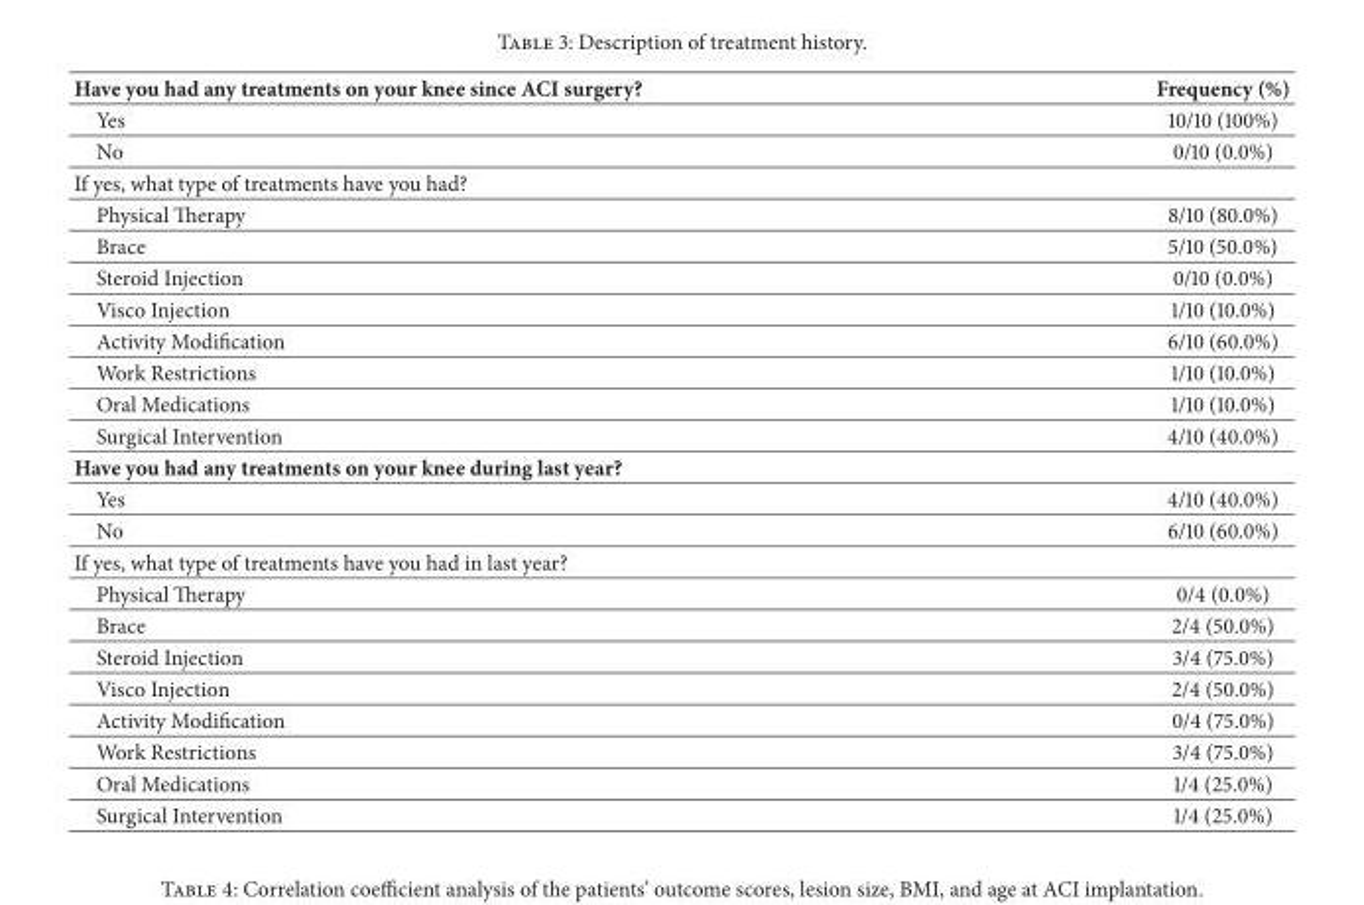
<table><thead><tr><td>Have you had any treatments on your knee since ACI surgery?</td><td>Frequency (%)</td></tr></thead><tbody><tr><td>Yes</td><td>10/10 (100%)</td></tr><tr><td>No</td><td>0/10 (0.0%)</td></tr><tr><td colspan="2">If yes, what type of treatments have you had?</td></tr><tr><td>Physical Therapy</td><td>8/10 (80.0%)</td></tr><tr><td>Brace</td><td>5/10 (50.0%)</td></tr><tr><td>Steroid Injection</td><td>0/10 (0.0%)</td></tr><tr><td>Visco Injection</td><td>1/10 (10.0%)</td></tr><tr><td>Activity Modification</td><td>6/10 (60.0%)</td></tr><tr><td>Work Restrictions</td><td>1/10 (10.0%)</td></tr><tr><td>Oral Medications</td><td>1/10 (10.0%)</td></tr><tr><td>Surgical Intervention</td><td>4/10 (40.0%)</td></tr><tr><td colspan="2">Have you had any treatments on your knee during last year?</td></tr><tr><td>Yes</td><td>4/10 (40.0%)</td></tr><tr><td>No</td><td>6/10 (60.0%)</td></tr><tr><td colspan="2">If yes, what type of treatments have you had in last year?</td></tr><tr><td>Physical Therapy</td><td>0/4 (0.0%)</td></tr><tr><td>Brace</td><td>2/4 (50.0%)</td></tr><tr><td>Steroid Injection</td><td>3/4 (75.0%)</td></tr><tr><td>Visco Injection</td><td>2/4 (50.0%)</td></tr><tr><td>Activity Modification</td><td>0/4 (75.0%)</td></tr><tr><td>Work Restrictions</td><td>3/4 (75.0%)</td></tr><tr><td>Oral Medications</td><td>1/4 (25.0%)</td></tr><tr><td>Surgical Intervention</td><td>1/4 (25.0%)</td></tr></tbody></table>